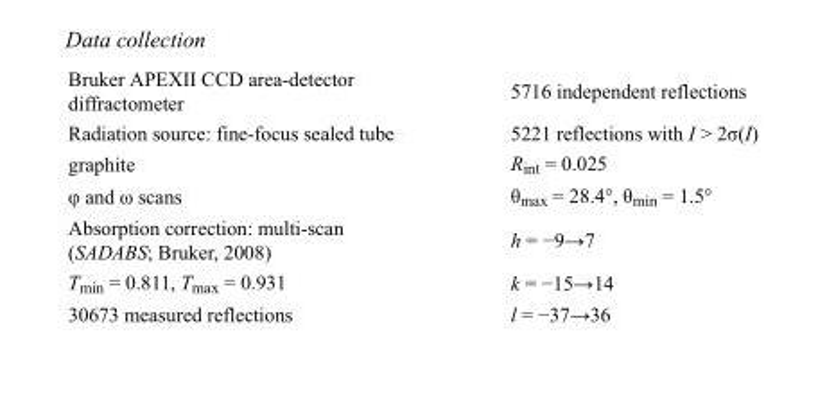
<table><tbody><tr><td>Bruker APEXII CCD area-detector diffractometer</td><td>5716 independent reflections</td></tr><tr><td>Radiation source: fine-focus sealed tube</td><td>5221 reflections with I &gt; 2σ(I)</td></tr><tr><td>graphite</td><td>R<sub>int</sub> = 0.025</td></tr><tr><td>φ and ω scans</td><td>θ<sub>max</sub> = 28.4°, θ<sub>min</sub> = 1.5°</td></tr><tr><td>Absorption correction: multi-scan (SADABS; Bruker, 2008)</td><td>h = −9→7</td></tr><tr><td>T<sub>min</sub> = 0.811, T<sub>max</sub> = 0.931</td><td>k = −15→14</td></tr><tr><td>30673 measured reflections</td><td>l = −37→36</td></tr></tbody></table>